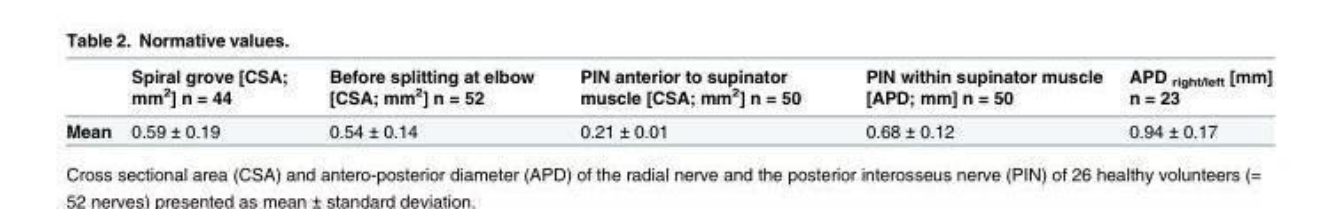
<table><thead><tr><td></td><td>Spiral grove [CSA; mm<sup>2</sup>] n = 44</td><td>Before splitting at elbow [CSA; mm<sup>2</sup>] n = 52</td><td>PIN anterior to supinator muscle [CSA; mm<sup>2</sup>] n = 50</td><td>PIN within supinator muscle [APD; mm] n = 50</td><td>APD <sub>right/left</sub> [mm] n = 23</td></tr></thead><tbody><tr><td>Mean</td><td>0.59 ± 0.19</td><td>0.54 ± 0.14</td><td>0.21 ± 0.01</td><td>0.68 ± 0.12</td><td>0.94 ± 0.17</td></tr></tbody></table>